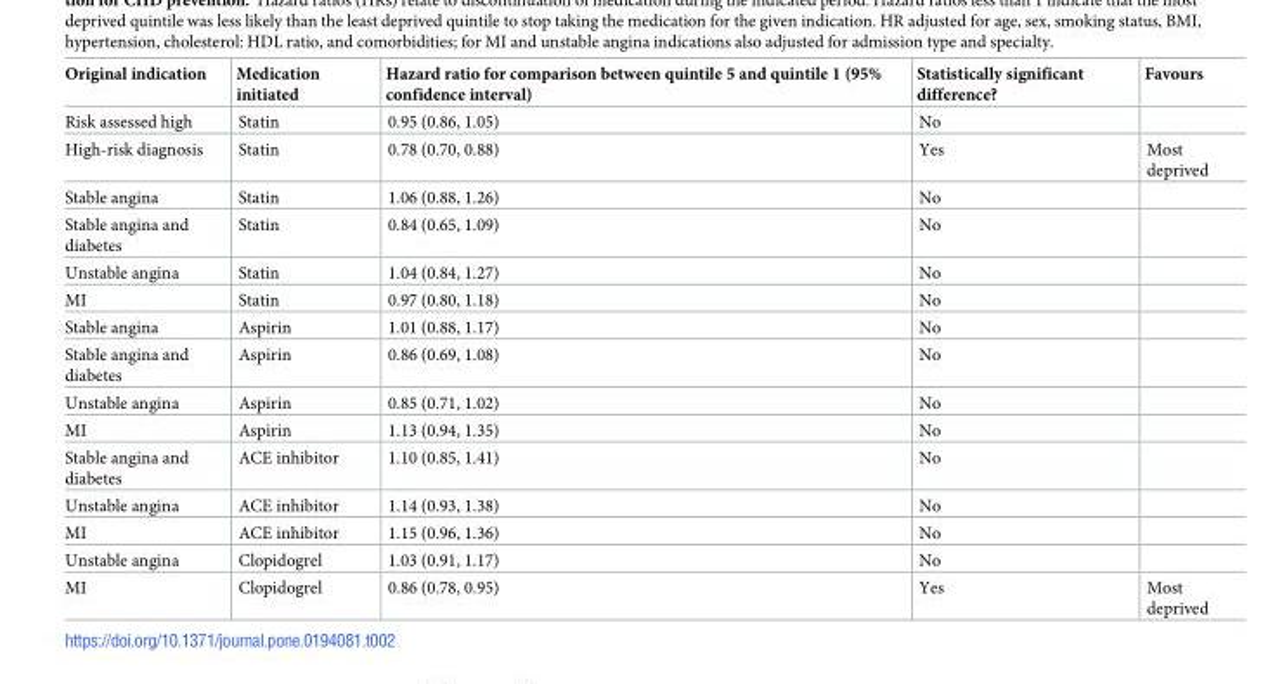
<table><thead><tr><td>Original indication</td><td>Medication initiated</td><td>Hazard ratio for comparison between quintile 5 and quintile 1 (95% confidence interval)</td><td>Statistically significant difference?</td><td>Favours</td></tr></thead><tbody><tr><td>Risk assessed high</td><td>Statin</td><td>0.95 (0.86, 1.05)</td><td>No</td><td></td></tr><tr><td>High-risk diagnosis</td><td>Statin</td><td>0.78 (0.70, 0.88)</td><td>Yes</td><td>Most deprived</td></tr><tr><td>Stable angina</td><td>Statin</td><td>1.06 (0.88, 1.26)</td><td>No</td><td></td></tr><tr><td>Stable angina and diabetes</td><td>Statin</td><td>0.84 (0.65, 1.09)</td><td>No</td><td></td></tr><tr><td>Unstable angina</td><td>Statin</td><td>1.04 (0.84, 1.27)</td><td>No</td><td></td></tr><tr><td>MI</td><td>Statin</td><td>0.97 (0.80, 1.18)</td><td>No</td><td></td></tr><tr><td>Stable angina</td><td>Aspirin</td><td>1.01 (0.88, 1.17)</td><td>No</td><td></td></tr><tr><td>Stable angina and diabetes</td><td>Aspirin</td><td>0.86 (0.69, 1.08)</td><td>No</td><td></td></tr><tr><td>Unstable angina</td><td>Aspirin</td><td>0.85 (0.71, 1.02)</td><td>No</td><td></td></tr><tr><td>MI</td><td>Aspirin</td><td>1.13 (0.94, 1.35)</td><td>No</td><td></td></tr><tr><td>Stable angina and diabetes</td><td>ACE inhibitor</td><td>1.10 (0.85, 1.41)</td><td>No</td><td></td></tr><tr><td>Unstable angina</td><td>ACE inhibitor</td><td>1.14 (0.93, 1.38)</td><td>No</td><td></td></tr><tr><td>MI</td><td>ACE inhibitor</td><td>1.15 (0.96, 1.36)</td><td>No</td><td></td></tr><tr><td>Unstable angina</td><td>Clopidogrel</td><td>1.03 (0.91, 1.17)</td><td>No</td><td></td></tr><tr><td>MI</td><td>Clopidogrel</td><td>0.86 (0.78, 0.95)</td><td>Yes</td><td>Most deprived</td></tr></tbody></table>